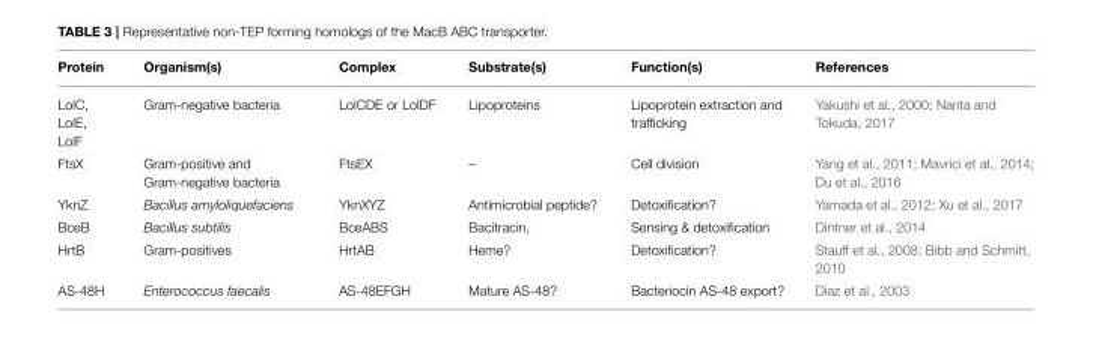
<table><thead><tr><td>Protein</td><td>Organism(s)</td><td>Complex</td><td>Substrate(s)</td><td>Function(s)</td><td>References</td></tr></thead><tbody><tr><td>LolC, LolE, LolF</td><td>Gram-negative bacteria</td><td>LolCDE or LolDF</td><td>Lipoproteins</td><td>Lipoprotein extraction and trafficking</td><td>Yakushi et al., 2000; Narita and Tokuda, 2017</td></tr><tr><td>FtsX</td><td>Gram-positive and Gram-negative bacteria</td><td>FtsEX</td><td>–</td><td>Cell division</td><td>Yang et al., 2011; Mavrici et al., 2014; Du et al., 2016</td></tr><tr><td>YknZ</td><td>Bacillus amyloliquefaciens</td><td>YknXYZ</td><td>Antimicrobial peptide?</td><td>Detoxification?</td><td>Yamada et al., 2012; Xu et al., 2017</td></tr><tr><td>BceB</td><td>Bacillus subtilis</td><td>BceABS</td><td>Bacitracin,</td><td>Sensing &amp; detoxification</td><td>Dintner et al., 2014</td></tr><tr><td>HrtB</td><td>Gram-positives</td><td>HrtAB</td><td>Heme?</td><td>Detoxification?</td><td>Stauff et al., 2008; Bibb and Schmitt, 2010</td></tr><tr><td>AS-48H</td><td>Enterococcus faecalis</td><td>AS-48EFGH</td><td>Mature AS-48?</td><td>Bacteriocin AS-48 export?</td><td>Diaz et al., 2003</td></tr></tbody></table>